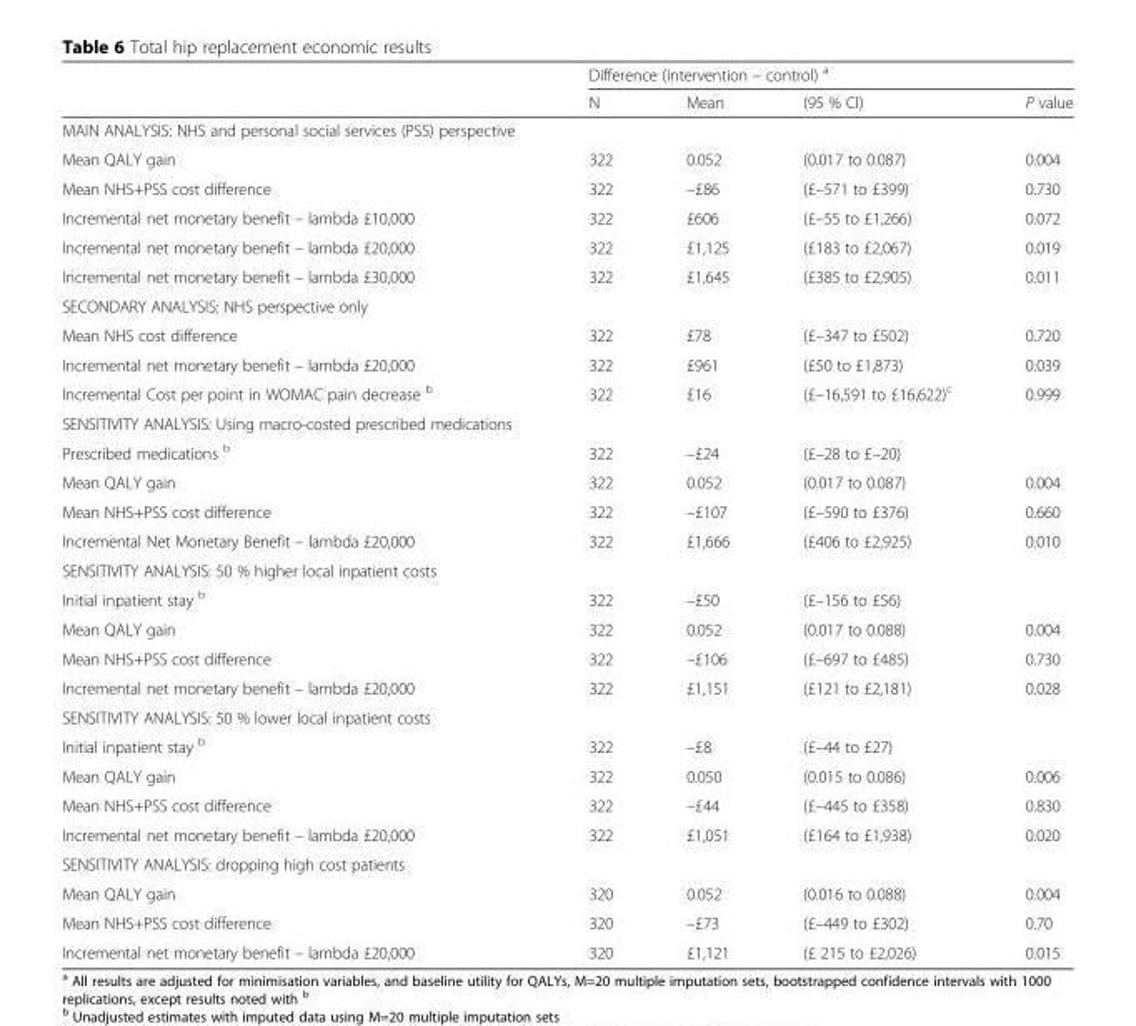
<table><thead><tr><td rowspan="2"></td><td colspan="4">Difference (intervention – control) <sup>a</sup></td></tr><tr><td>N</td><td>Mean</td><td>(95 % CI)</td><td>P value</td></tr></thead><tbody><tr><td colspan="5">MAIN ANALYSIS: NHS and personal social services (PSS) perspective</td></tr><tr><td>Mean QALY gain</td><td>322</td><td>0.052</td><td>(0.017 to 0.087)</td><td>0.004</td></tr><tr><td>Mean NHS+PSS cost difference</td><td>322</td><td>–£86</td><td>(£–571 to £399)</td><td>0.730</td></tr><tr><td>Incremental net monetary benefit – lambda £10,000</td><td>322</td><td>£606</td><td>(£–55 to £1,266)</td><td>0.072</td></tr><tr><td>Incremental net monetary benefit – lambda £20,000</td><td>322</td><td>£1,125</td><td>(£183 to £2,067)</td><td>0.019</td></tr><tr><td>Incremental net monetary benefit – lambda £30,000</td><td>322</td><td>£1,645</td><td>(£385 to £2,905)</td><td>0.011</td></tr><tr><td colspan="5">SECONDARY ANALYSIS: NHS perspective only</td></tr><tr><td>Mean NHS cost difference</td><td>322</td><td>£78</td><td>(£–347 to £502)</td><td>0.720</td></tr><tr><td>Incremental net monetary benefit – lambda £20,000</td><td>322</td><td>£961</td><td>(£50 to £1,873)</td><td>0.039</td></tr><tr><td>Incremental Cost per point in WOMAC pain decrease <sup>b</sup></td><td>322</td><td>£16</td><td>(£–16,591 to £16,622)<sup>c</sup></td><td>0.999</td></tr><tr><td colspan="5">SENSITIVITY ANALYSIS: Using macro-costed prescribed medications</td></tr><tr><td>Prescribed medications <sup>b</sup></td><td>322</td><td>–£24</td><td>(£–28 to £–20)</td><td></td></tr><tr><td>Mean QALY gain</td><td>322</td><td>0.052</td><td>(0.017 to 0.087)</td><td>0.004</td></tr><tr><td>Mean NHS+PSS cost difference</td><td>322</td><td>–£107</td><td>(£–590 to £376)</td><td>0.660</td></tr><tr><td>Incremental Net Monetary Benefit – lambda £20,000</td><td>322</td><td>£1,666</td><td>(£406 to £2,925)</td><td>0.010</td></tr><tr><td colspan="5">SENSITIVITY ANALYSIS: 50 % higher local inpatient costs</td></tr><tr><td>Initial inpatient stay <sup>b</sup></td><td>322</td><td>–£50</td><td>(£–156 to £56)</td><td></td></tr><tr><td>Mean QALY gain</td><td>322</td><td>0.052</td><td>(0.017 to 0.088)</td><td>0.004</td></tr><tr><td>Mean NHS+PSS cost difference</td><td>322</td><td>–£106</td><td>(£–697 to £485)</td><td>0.730</td></tr><tr><td>Incremental net monetary benefit – lambda £20,000</td><td>322</td><td>£1,151</td><td>(£121 to £2,181)</td><td>0.028</td></tr><tr><td colspan="5">SENSITIVITY ANALYSIS: 50 % lower local inpatient costs</td></tr><tr><td>Initial inpatient stay <sup>b</sup></td><td>322</td><td>–£8</td><td>(£–44 to £27)</td><td></td></tr><tr><td>Mean QALY gain</td><td>322</td><td>0.050</td><td>(0.015 to 0.086)</td><td>0.006</td></tr><tr><td>Mean NHS+PSS cost difference</td><td>322</td><td>–£44</td><td>(£–445 to £358)</td><td>0.830</td></tr><tr><td>Incremental net monetary benefit – lambda £20,000</td><td>322</td><td>£1,051</td><td>(£164 to £1,938)</td><td>0.020</td></tr><tr><td colspan="5">SENSITIVITY ANALYSIS: dropping high cost patients</td></tr><tr><td>Mean QALY gain</td><td>320</td><td>0.052</td><td>(0.016 to 0.088)</td><td>0.004</td></tr><tr><td>Mean NHS+PSS cost difference</td><td>320</td><td>–£73</td><td>(£–449 to £302)</td><td>0.70</td></tr><tr><td>Incremental net monetary benefit – lambda £20,000</td><td>320</td><td>£1,121</td><td>(£ 215 to £2,026)</td><td>0.015</td></tr></tbody></table>